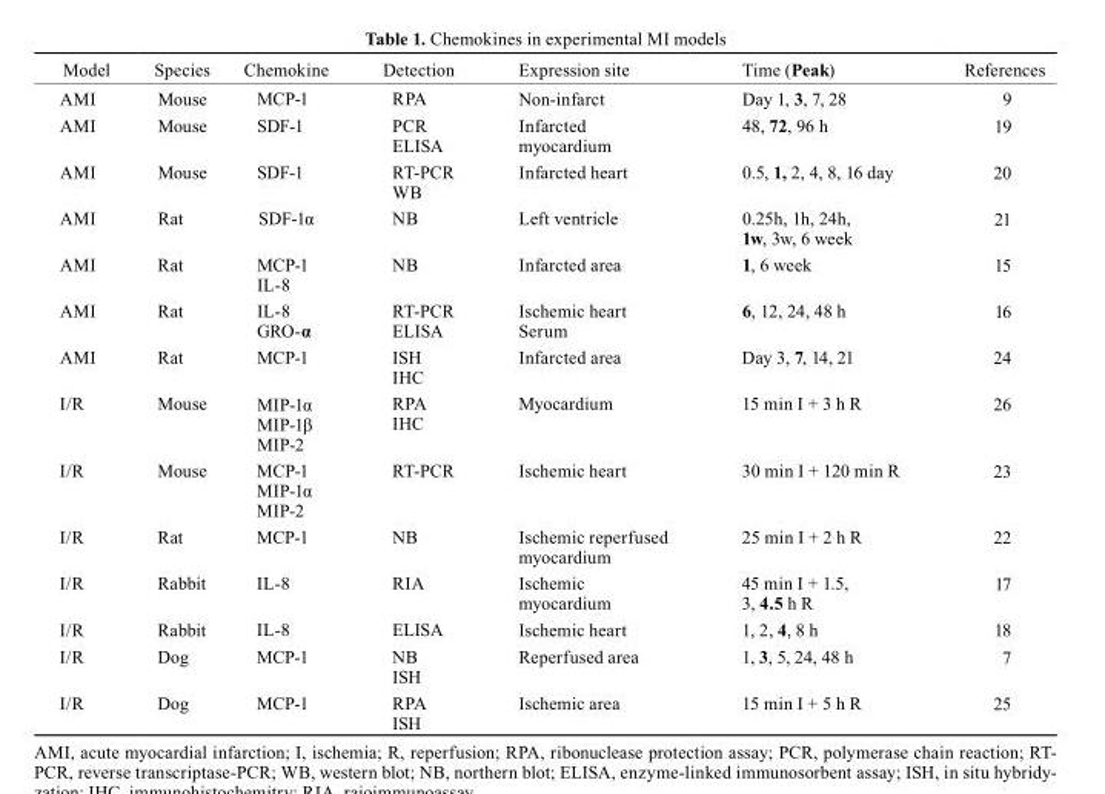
<table><thead><tr><td>Model</td><td>Species</td><td>Chemokine</td><td>Detection</td><td>Expression site</td><td>Time (Peak)</td><td>References</td></tr></thead><tbody><tr><td>AMI</td><td>Mouse</td><td>MCP-1</td><td>RPA</td><td>Non-infarct</td><td>Day 1, 3, 7, 28</td><td>9</td></tr><tr><td>AMI</td><td>Mouse</td><td>SDF-1</td><td>PCR ELISA</td><td>Infarcted myocardium</td><td>48, 72, 96 h</td><td>19</td></tr><tr><td>AMI</td><td>Mouse</td><td>SDF-1</td><td>RT-PCR WB</td><td>Infarcted heart</td><td>0.5, 1, 2, 4, 8, 16 day</td><td>20</td></tr><tr><td>AMI</td><td>Rat</td><td>SDF-1α</td><td>NB</td><td>Left ventricle</td><td>0.25h, 1h, 24h, 1w, 3w, 6 week</td><td>21</td></tr><tr><td>AMI</td><td>Rat</td><td>MCP-1 IL-8</td><td>NB</td><td>Infarcted area</td><td>1, 6 week</td><td>15</td></tr><tr><td>AMI</td><td>Rat</td><td>IL-8 GRO-α</td><td>RT-PCR ELISA</td><td>Ischemic heart Serum</td><td>6, 12, 24, 48 h</td><td>16</td></tr><tr><td>AMI</td><td>Rat</td><td>MCP-1</td><td>ISH IHC</td><td>Infarcted area</td><td>Day 3, 7, 14, 21</td><td>24</td></tr><tr><td>I/R</td><td>Mouse</td><td>MIP-1α MIP-1β MIP-2</td><td>RPA IHC</td><td>Myocardium</td><td>15 min I + 3 h R</td><td>26</td></tr><tr><td>I/R</td><td>Mouse</td><td>MCP-1 MIP-1α MIP-2</td><td>RT-PCR</td><td>Ischemic heart</td><td>30 min I + 120 min R</td><td>23</td></tr><tr><td>I/R</td><td>Rat</td><td>MCP-1</td><td>NB</td><td>Ischemic reperfused myocardium</td><td>25 min I + 2 h R</td><td>22</td></tr><tr><td>I/R</td><td>Rabbit</td><td>IL-8</td><td>RIA</td><td>Ischemic myocardium</td><td>45 min I + 1.5, 3, 4.5 h R</td><td>17</td></tr><tr><td>I/R</td><td>Rabbit</td><td>IL-8</td><td>ELISA</td><td>Ischemic heart</td><td>1, 2, 4, 8 h</td><td>18</td></tr><tr><td>I/R</td><td>Dog</td><td>MCP-1</td><td>NB ISH</td><td>Reperfused area</td><td>1, 3, 5, 24, 48 h</td><td>7</td></tr><tr><td>I/R</td><td>Dog</td><td>MCP-1</td><td>RPA ISH</td><td>Ischemic area</td><td>15 min I + 5 h R</td><td>25</td></tr></tbody></table>